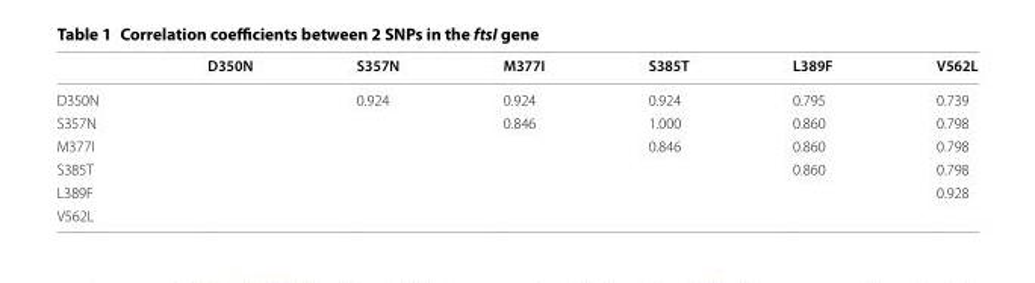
<table><thead><tr><td></td><td>D350N</td><td>S357N</td><td>M377I</td><td>S385T</td><td>L389F</td><td>V562L</td></tr></thead><tbody><tr><td>D350N</td><td></td><td>0.924</td><td>0.924</td><td>0.924</td><td>0.795</td><td>0.739</td></tr><tr><td>S357N</td><td></td><td></td><td>0.846</td><td>1.000</td><td>0.860</td><td>0.798</td></tr><tr><td>M377I</td><td></td><td></td><td></td><td>0.846</td><td>0.860</td><td>0.798</td></tr><tr><td>S385T</td><td></td><td></td><td></td><td></td><td>0.860</td><td>0.798</td></tr><tr><td>L389F</td><td></td><td></td><td></td><td></td><td></td><td>0.928</td></tr><tr><td>V562L</td><td></td><td></td><td></td><td></td><td></td><td></td></tr></tbody></table>